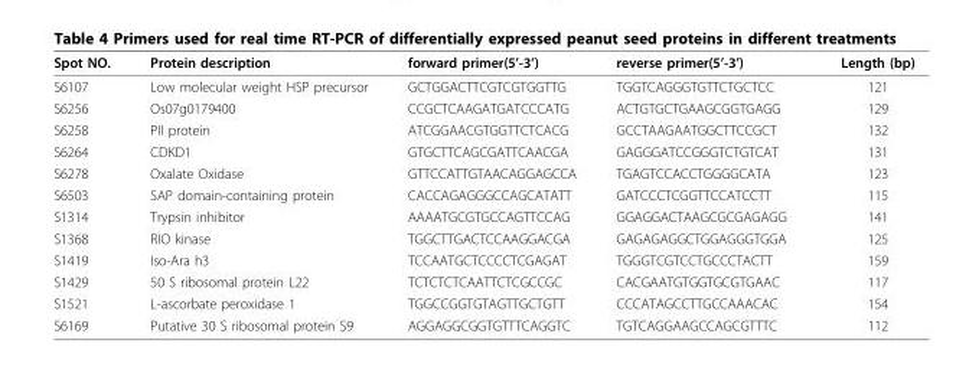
<table><thead><tr><td>Spot NO.</td><td>Protein description</td><td>forward primer(5’-3’)</td><td>reverse primer(5’-3’)</td><td>Length (bp)</td></tr></thead><tbody><tr><td>S6107</td><td>Low molecular weight HSP precursor</td><td>GCTGGACTTCGTCGTGGTTG</td><td>TGGTCAGGGTGTTCTGCTCC</td><td>121</td></tr><tr><td>S6256</td><td>Os07g0179400</td><td>CCGCTCAAGATGATCCCATG</td><td>ACTGTGCTGAAGCGGTGAGG</td><td>129</td></tr><tr><td>S6258</td><td>PII protein</td><td>ATCGGAACGTGGTTCTCACG</td><td>GCCTAAGAATGGCTTCCGCT</td><td>132</td></tr><tr><td>S6264</td><td>CDKD1</td><td>GTGCTTCAGCGATTCAACGA</td><td>GAGGGATCCGGGTCTGTCAT</td><td>131</td></tr><tr><td>S6278</td><td>Oxalate Oxidase</td><td>GTTCCATTGTAACAGGAGCCA</td><td>TGAGTCCACCTGGGGCATA</td><td>123</td></tr><tr><td>S6503</td><td>SAP domain-containing protein</td><td>CACCAGAGGGCCAGCATATT</td><td>GATCCCTCGGTTCCATCCTT</td><td>115</td></tr><tr><td>S1314</td><td>Trypsin inhibitor</td><td>AAAATGCGTGCCAGTTCCAG</td><td>GGAGGACTAAGCGCGAGAGG</td><td>141</td></tr><tr><td>S1368</td><td>RIO kinase</td><td>TGGCTTGACTCCAAGGACGA</td><td>GAGAGAGGCTGGAGGGTGGA</td><td>125</td></tr><tr><td>S1419</td><td>Iso-Ara h3</td><td>TCCAATGCTCCCCTCGAGAT</td><td>TGGGTCGTCCTGCCCTACTT</td><td>159</td></tr><tr><td>S1429</td><td>50 S ribosomal protein L22</td><td>TCTCTCTCAATTCTCGCCGC</td><td>CACGAATGTGGTGCGTGAAC</td><td>117</td></tr><tr><td>S1521</td><td>L-ascorbate peroxidase 1</td><td>TGGCCGGTGTAGTTGCTGTT</td><td>CCCATAGCCTTGCCAAACAC</td><td>154</td></tr><tr><td>S6169</td><td>Putative 30 S ribosomal protein S9</td><td>AGGAGGCGGTGTTTCAGGTC</td><td>TGTCAGGAAGCCAGCGTTTC</td><td>112</td></tr></tbody></table>